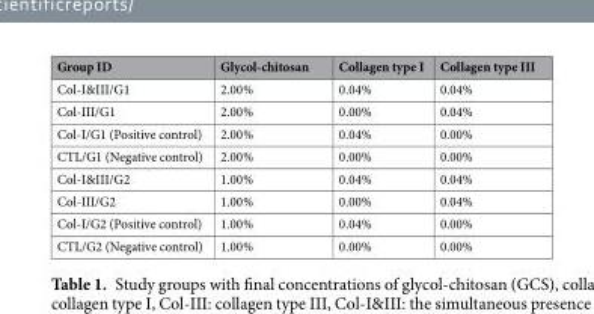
<table><thead><tr><td>Group ID</td><td>Glycol-chitosan</td><td>Collagen type I</td><td>Collagen type III</td></tr></thead><tbody><tr><td>Col-I&amp;III/G1</td><td>2.00%</td><td>0.04%</td><td>0.04%</td></tr><tr><td>Col-III/G1</td><td>2.00%</td><td>0.00%</td><td>0.04%</td></tr><tr><td>Col-I/G1 (Positive control)</td><td>2.00%</td><td>0.04%</td><td>0.00%</td></tr><tr><td>CTL/G1 (Negative control)</td><td>2.00%</td><td>0.00%</td><td>0.00%</td></tr><tr><td>Col-I&amp;III/G2</td><td>1.00%</td><td>0.04%</td><td>0.04%</td></tr><tr><td>Col-III/G2</td><td>1.00%</td><td>0.00%</td><td>0.04%</td></tr><tr><td>Col-I/G2 (Positive control)</td><td>1.00%</td><td>0.04%</td><td>0.00%</td></tr><tr><td>CTL/G2 (Negative control)</td><td>1.00%</td><td>0.00%</td><td>0.00%</td></tr></tbody></table>